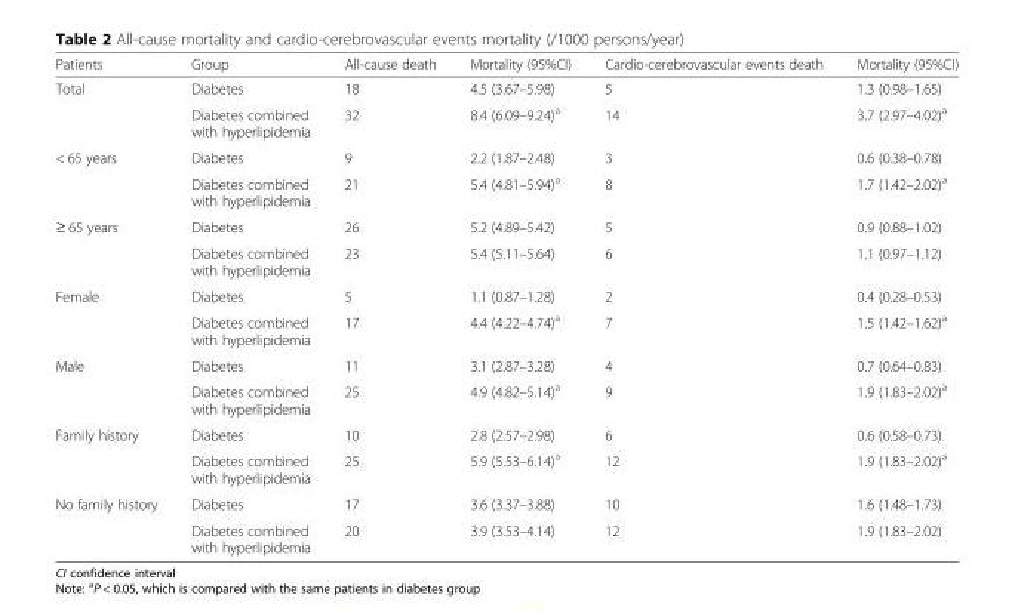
<table><thead><tr><td>Patients</td><td>Group</td><td>All-cause death</td><td>Mortality (95%CI)</td><td>Cardio-cerebrovascular events death</td><td>Mortality (95%CI)</td></tr></thead><tbody><tr><td rowspan="2">Total</td><td>Diabetes</td><td>18</td><td>4.5 (3.67–5.98)</td><td>5</td><td>1.3 (0.98–1.65)</td></tr><tr><td>Diabetes combined with hyperlipidemia</td><td>32</td><td>8.4 (6.09–9.24)<sup>a</sup></td><td>14</td><td>3.7 (2.97–4.02)<sup>a</sup></td></tr><tr><td rowspan="2">&lt; 65 years</td><td>Diabetes</td><td>9</td><td>2.2 (1.87–2.48)</td><td>3</td><td>0.6 (0.38–0.78)</td></tr><tr><td>Diabetes combined with hyperlipidemia</td><td>21</td><td>5.4 (4.81–5.94)<sup>a</sup></td><td>8</td><td>1.7 (1.42–2.02)<sup>a</sup></td></tr><tr><td rowspan="2">≥ 65 years</td><td>Diabetes</td><td>26</td><td>5.2 (4.89–5.42)</td><td>5</td><td>0.9 (0.88–1.02)</td></tr><tr><td>Diabetes combined with hyperlipidemia</td><td>23</td><td>5.4 (5.11–5.64)</td><td>6</td><td>1.1 (0.97–1.12)</td></tr><tr><td rowspan="2">Female</td><td>Diabetes</td><td>5</td><td>1.1 (0.87–1.28)</td><td>2</td><td>0.4 (0.28–0.53)</td></tr><tr><td>Diabetes combined with hyperlipidemia</td><td>17</td><td>4.4 (4.22–4.74)<sup>a</sup></td><td>7</td><td>1.5 (1.42–1.62)<sup>a</sup></td></tr><tr><td rowspan="2">Male</td><td>Diabetes</td><td>11</td><td>3.1 (2.87–3.28)</td><td>4</td><td>0.7 (0.64–0.83)</td></tr><tr><td>Diabetes combined with hyperlipidemia</td><td>25</td><td>4.9 (4.82–5.14)<sup>a</sup></td><td>9</td><td>1.9 (1.83–2.02)<sup>a</sup></td></tr><tr><td rowspan="2">Family history</td><td>Diabetes</td><td>10</td><td>2.8 (2.57–2.98)</td><td>6</td><td>0.6 (0.58–0.73)</td></tr><tr><td>Diabetes combined with hyperlipidemia</td><td>25</td><td>5.9 (5.53–6.14)<sup>a</sup></td><td>12</td><td>1.9 (1.83–2.02)<sup>a</sup></td></tr><tr><td rowspan="2">No family history</td><td>Diabetes</td><td>17</td><td>3.6 (3.37–3.88)</td><td>10</td><td>1.6 (1.48–1.73)</td></tr><tr><td>Diabetes combined with hyperlipidemia</td><td>20</td><td>3.9 (3.53–4.14)</td><td>12</td><td>1.9 (1.83–2.02)</td></tr></tbody></table>